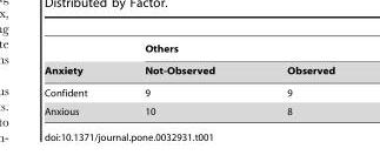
<table><thead><tr><td rowspan="2">Anxiety</td><td colspan="2">Others</td></tr><tr><td>Not-Observed</td><td>Observed</td></tr></thead><tbody><tr><td>Confident</td><td>9</td><td>9</td></tr><tr><td>Anxious</td><td>10</td><td>8</td></tr></tbody></table>